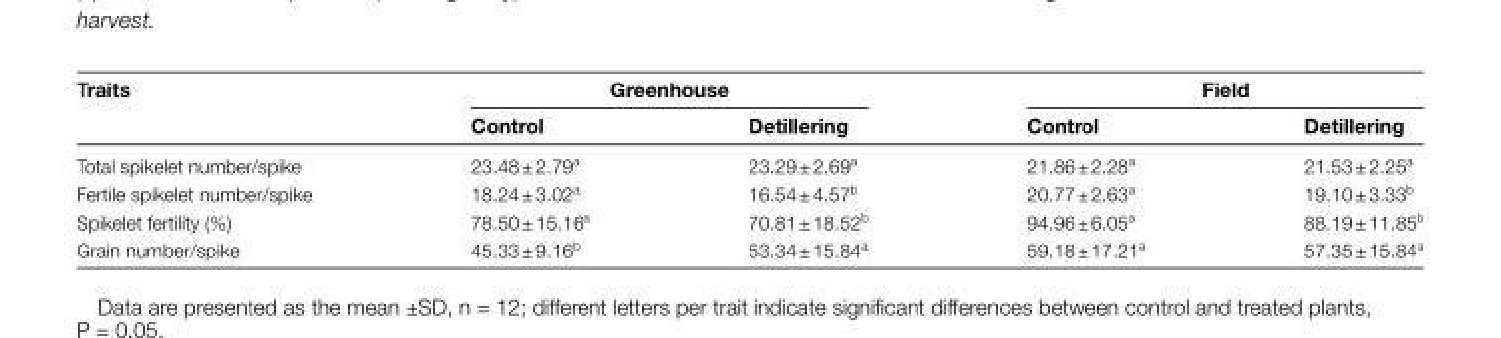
<table><thead><tr><td rowspan="2">Traits</td><td colspan="2">Greenhouse</td><td colspan="2">Field</td></tr><tr><td>Control</td><td>Detillering</td><td>Control</td><td>Detillering</td></tr></thead><tbody><tr><td>Total spikelet number/spike</td><td>23.48 ± 2.79<sup>a</sup></td><td>23.29 ± 2.69<sup>a</sup></td><td>21.86 ± 2.28<sup>a</sup></td><td>21.53 ± 2.25<sup>a</sup></td></tr><tr><td>Fertile spikelet number/spike</td><td>18.24 ± 3.02<sup>a</sup></td><td>16.54 ± 4.57<sup>b</sup></td><td>20.77 ± 2.63<sup>a</sup></td><td>19.10 ± 3.33<sup>b</sup></td></tr><tr><td>Spikelet fertility (%)</td><td>78.50 ± 15.16<sup>a</sup></td><td>70.81 ± 18.52<sup>b</sup></td><td>94.96 ± 6.05<sup>a</sup></td><td>88.19 ± 11.85<sup>b</sup></td></tr><tr><td>Grain number/spike</td><td>45.33 ± 9.16<sup>b</sup></td><td>53.34 ± 15.84<sup>a</sup></td><td>59.18 ± 17.21<sup>a</sup></td><td>57.35 ± 15.84<sup>a</sup></td></tr></tbody></table>